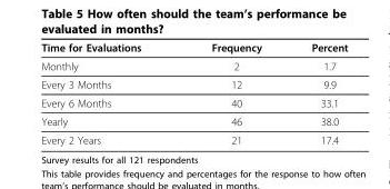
<table><thead><tr><td>Time for Evaluations</td><td>Frequency</td><td>Percent</td></tr></thead><tbody><tr><td>Monthly</td><td>2</td><td>1.7</td></tr><tr><td>Every 3 Months</td><td>12</td><td>9.9</td></tr><tr><td>Every 6 Months</td><td>40</td><td>33.1</td></tr><tr><td>Yearly</td><td>46</td><td>38.0</td></tr><tr><td>Every 2 Years</td><td>21</td><td>17.4</td></tr></tbody></table>